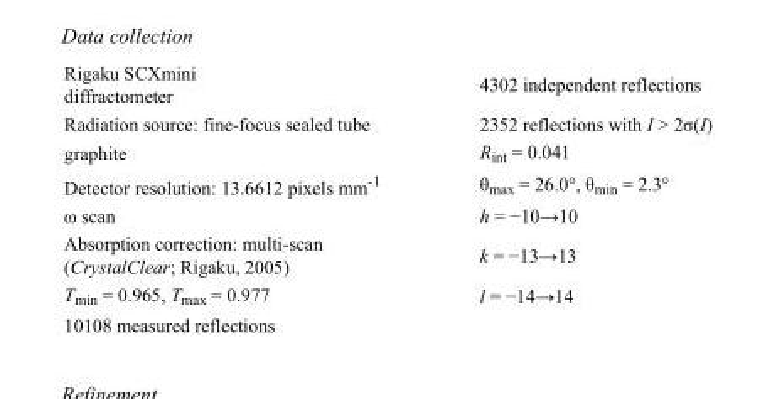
<table><tbody><tr><td>Rigaku SCXmini diffractometer</td><td>4302 independent reflections</td></tr><tr><td>Radiation source: fine-focus sealed tube</td><td>2352 reflections with I &gt; 2σ(I)</td></tr><tr><td>graphite</td><td>R<sub>int</sub> = 0.041</td></tr><tr><td>Detector resolution: 13.6612 pixels mm<sup>-1</sup></td><td>θ<sub>max</sub> = 26.0°, θ<sub>min</sub> = 2.3°</td></tr><tr><td>ω scan</td><td>h = −10→10</td></tr><tr><td>Absorption correction: multi-scan (CrystalClear; Rigaku, 2005)</td><td>k = −13→13</td></tr><tr><td>T<sub>min</sub> = 0.965, T<sub>max</sub> = 0.977</td><td>l = −14→14</td></tr><tr><td>10108 measured reflections</td><td></td></tr></tbody></table>